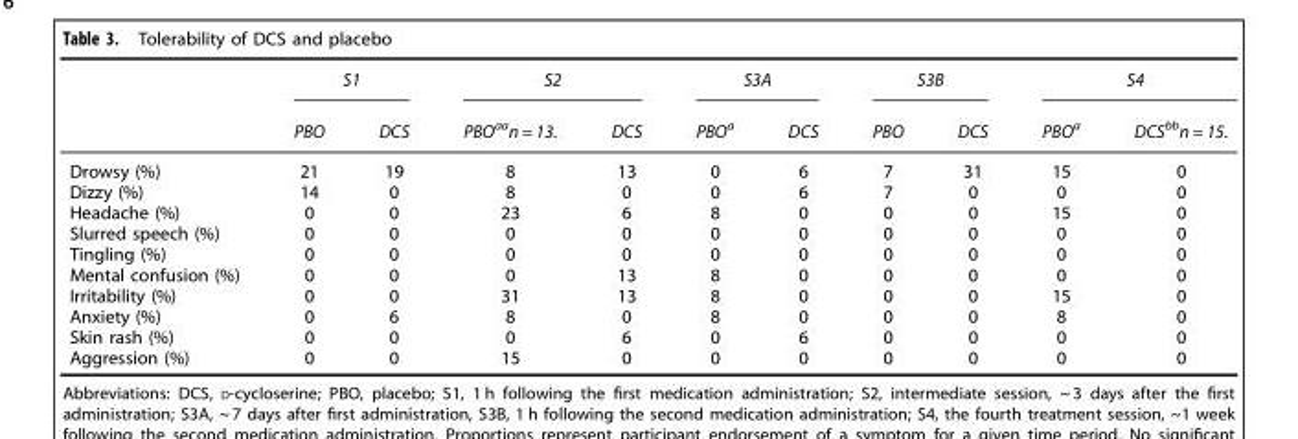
<table><thead><tr><td rowspan="2"></td><td colspan="2">S1</td><td colspan="2">S2</td><td colspan="2">S3A</td><td colspan="2">S3B</td><td colspan="2">S4</td></tr><tr><td>PBO</td><td>DCS</td><td>PBO<sup>aa</sup>n = 13.</td><td>DCS</td><td>PBO<sup>a</sup></td><td>DCS</td><td>PBO</td><td>DCS</td><td>PBO<sup>a</sup></td><td>DCS<sup>bb</sup>n = 15.</td></tr></thead><tbody><tr><td>Drowsy (%)</td><td>21</td><td>19</td><td>8</td><td>13</td><td>0</td><td>6</td><td>7</td><td>31</td><td>15</td><td>0</td></tr><tr><td>Dizzy (%)</td><td>14</td><td>0</td><td>8</td><td>0</td><td>0</td><td>6</td><td>7</td><td>0</td><td>0</td><td>0</td></tr><tr><td>Headache (%)</td><td>0</td><td>0</td><td>23</td><td>6</td><td>8</td><td>0</td><td>0</td><td>0</td><td>15</td><td>0</td></tr><tr><td>Slurred speech (%)</td><td>0</td><td>0</td><td>0</td><td>0</td><td>0</td><td>0</td><td>0</td><td>0</td><td>0</td><td>0</td></tr><tr><td>Tingling (%)</td><td>0</td><td>0</td><td>0</td><td>0</td><td>0</td><td>0</td><td>0</td><td>0</td><td>0</td><td>0</td></tr><tr><td>Mental confusion (%)</td><td>0</td><td>0</td><td>0</td><td>13</td><td>8</td><td>0</td><td>0</td><td>0</td><td>0</td><td>0</td></tr><tr><td>Irritability (%)</td><td>0</td><td>0</td><td>31</td><td>13</td><td>8</td><td>0</td><td>0</td><td>0</td><td>15</td><td>0</td></tr><tr><td>Anxiety (%)</td><td>0</td><td>6</td><td>8</td><td>0</td><td>8</td><td>0</td><td>0</td><td>0</td><td>8</td><td>0</td></tr><tr><td>Skin rash (%)</td><td>0</td><td>0</td><td>0</td><td>6</td><td>0</td><td>6</td><td>0</td><td>0</td><td>0</td><td>0</td></tr><tr><td>Aggression (%)</td><td>0</td><td>0</td><td>15</td><td>0</td><td>0</td><td>0</td><td>0</td><td>0</td><td>0</td><td>0</td></tr></tbody></table>